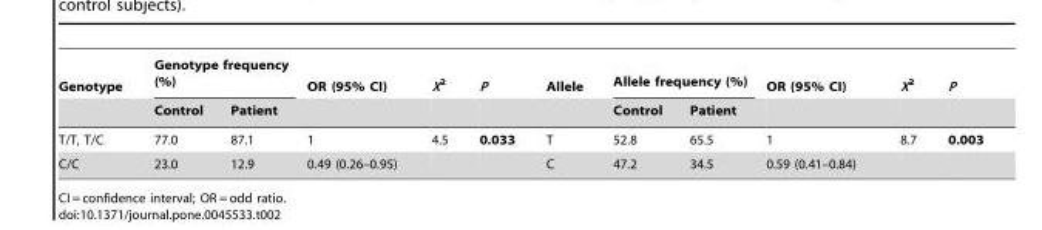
<table><thead><tr><td rowspan="2">Genotype</td><td colspan="2">Genotype frequency (%)</td><td rowspan="2">OR (95% CI)</td><td rowspan="2">X<sup>2</sup></td><td rowspan="2">P</td><td rowspan="2">Allele</td><td colspan="2">Allele frequency (%)</td><td rowspan="2">OR (95% CI)</td><td rowspan="2">X<sup>2</sup></td><td rowspan="2">P</td></tr><tr><td>Control</td><td>Patient</td><td>Control</td><td>Patient</td></tr></thead><tbody><tr><td>T/T, T/C</td><td>77.0</td><td>87.1</td><td>1</td><td>4.5</td><td>0.033</td><td>T</td><td>52.8</td><td>65.5</td><td>1</td><td>8.7</td><td>0.003</td></tr><tr><td>C/C</td><td>23.0</td><td>12.9</td><td>0.49 (0.26–0.95)</td><td></td><td></td><td>C</td><td>47.2</td><td>34.5</td><td>0.59 (0.41–0.84)</td><td></td><td></td></tr></tbody></table>